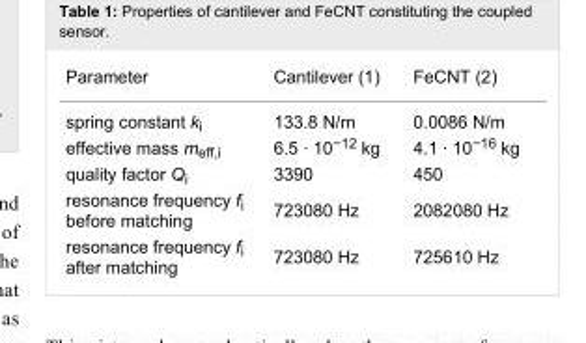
<table><tbody><tr><td>Parameter</td><td>Cantilever (1)</td><td>FeCNT (2)</td></tr><tr><td>spring constant k<sub>i</sub></td><td>133.8 N/m</td><td>0.0086 N/m</td></tr><tr><td>effective mass m<sub>eff,i</sub></td><td>6.5 · 10<sup>−12</sup> kg</td><td>4.1 · 10<sup>−16</sup> kg</td></tr><tr><td>quality factor Q<sub>i</sub></td><td>3390</td><td>450</td></tr><tr><td>resonance frequency f<sub>i</sub> before matching</td><td>723080 Hz</td><td>2082080 Hz</td></tr><tr><td>resonance frequency f<sub>i</sub> after matching</td><td>723080 Hz</td><td>725610 Hz</td></tr></tbody></table>